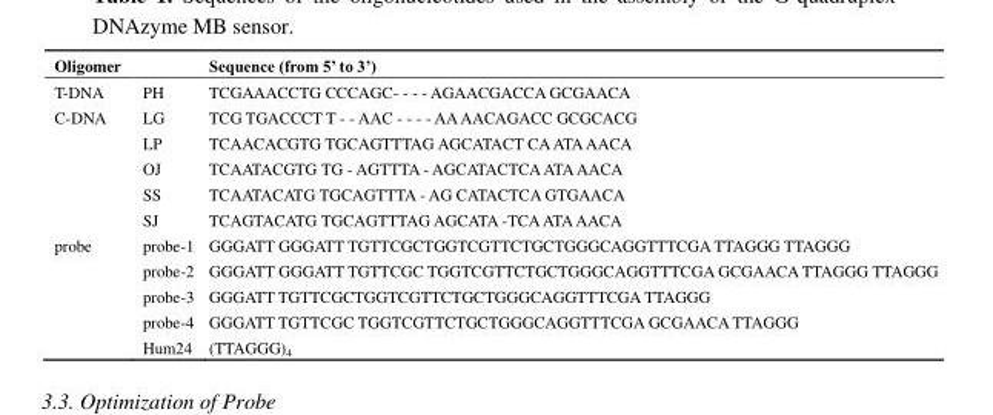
<table><thead><tr><td colspan="2">Oligomer</td><td rowspan="2">Sequence (from 5’ to 3’) TCGAAACCTG CCCAGC- - - - AGAACGACCA GCGAACA</td></tr><tr><td>T-DNA</td><td>PH</td></tr></thead><tbody><tr><td rowspan="5">C-DNA</td><td>LG</td><td>TCG TGACCCT T - - AAC - - - - AA AACAGACC GCGCACG</td></tr><tr><td>LP</td><td>TCAACACGTG TGCAGTTTAG AGCATACT CA ATA AACA</td></tr><tr><td>OJ</td><td>TCAATACGTG TG - AGTTTA - AGCATACTCA ATA AACA</td></tr><tr><td>SS</td><td>TCAATACATG TGCAGTTTA - AG CATACTCA GTGAACA</td></tr><tr><td>SJ</td><td>TCAGTACATG TGCAGTTTAG AGCATA -TCA ATA AACA</td></tr><tr><td rowspan="5">probe</td><td>probe-1</td><td>GGGATT GGGATT TGTTCGCTGGTCGTTCTGCTGGGCAGGTTTCGA TTAGGG TTAGGG</td></tr><tr><td>probe-2</td><td>GGGATT GGGATT TGTTCGC TGGTCGTTCTGCTGGGCAGGTTTCGA GCGAACA TTAGGG TTAGGG</td></tr><tr><td>probe-3</td><td>GGGATT TGTTCGCTGGTCGTTCTGCTGGGCAGGTTTCGA TTAGGG</td></tr><tr><td>probe-4</td><td>GGGATT TGTTCGC TGGTCGTTCTGCTGGGCAGGTTTCGA GCGAACA TTAGGG</td></tr><tr><td>Hum24</td><td>(TTAGGG)<sub>4</sub></td></tr></tbody></table>